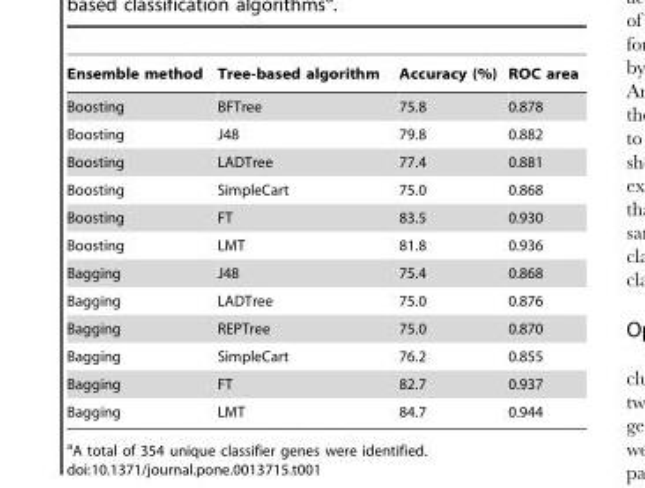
<table><thead><tr><td>Ensemble method</td><td>Tree-based algorithm</td><td>Accuracy (%)</td><td>ROC area</td></tr></thead><tbody><tr><td>Boosting</td><td>BFTree</td><td>75.8</td><td>0.878</td></tr><tr><td>Boosting</td><td>J48</td><td>79.8</td><td>0.882</td></tr><tr><td>Boosting</td><td>LADTree</td><td>77.4</td><td>0.881</td></tr><tr><td>Boosting</td><td>SimpleCart</td><td>75.0</td><td>0.868</td></tr><tr><td>Boosting</td><td>FT</td><td>83.5</td><td>0.930</td></tr><tr><td>Boosting</td><td>LMT</td><td>81.8</td><td>0.936</td></tr><tr><td>Bagging</td><td>J48</td><td>75.4</td><td>0.868</td></tr><tr><td>Bagging</td><td>LADTree</td><td>75.0</td><td>0.876</td></tr><tr><td>Bagging</td><td>REPTree</td><td>75.0</td><td>0.870</td></tr><tr><td>Bagging</td><td>SimpleCart</td><td>76.2</td><td>0.855</td></tr><tr><td>Bagging</td><td>FT</td><td>82.7</td><td>0.937</td></tr><tr><td>Bagging</td><td>LMT</td><td>84.7</td><td>0.944</td></tr></tbody></table>